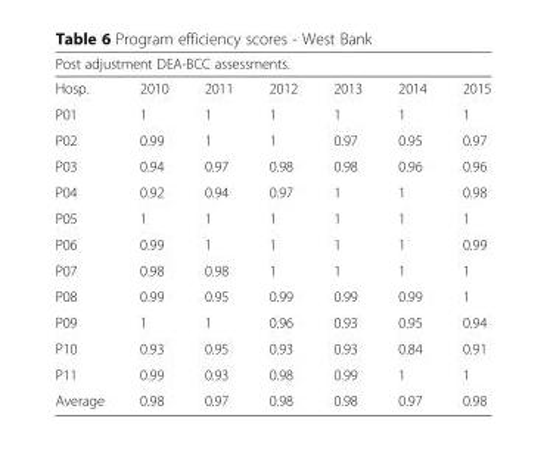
<table><thead><tr><td colspan="7">Post adjustment DEA-BCC assessments.</td></tr><tr><td>Hosp.</td><td>2010</td><td>2011</td><td>2012</td><td>2013</td><td>2014</td><td>2015</td></tr></thead><tbody><tr><td>P01</td><td>1</td><td>1</td><td>1</td><td>1</td><td>1</td><td>1</td></tr><tr><td>P02</td><td>0.99</td><td>1</td><td>1</td><td>0.97</td><td>0.95</td><td>0.97</td></tr><tr><td>P03</td><td>0.94</td><td>0.97</td><td>0.98</td><td>0.98</td><td>0.96</td><td>0.96</td></tr><tr><td>P04</td><td>0.92</td><td>0.94</td><td>0.97</td><td>1</td><td>1</td><td>0.98</td></tr><tr><td>P05</td><td>1</td><td>1</td><td>1</td><td>1</td><td>1</td><td>1</td></tr><tr><td>P06</td><td>0.99</td><td>1</td><td>1</td><td>1</td><td>1</td><td>0.99</td></tr><tr><td>P07</td><td>0.98</td><td>0.98</td><td>1</td><td>1</td><td>1</td><td>1</td></tr><tr><td>P08</td><td>0.99</td><td>0.95</td><td>0.99</td><td>0.99</td><td>0.99</td><td>1</td></tr><tr><td>P09</td><td>1</td><td>1</td><td>0.96</td><td>0.93</td><td>0.95</td><td>0.94</td></tr><tr><td>P10</td><td>0.93</td><td>0.95</td><td>0.93</td><td>0.93</td><td>0.84</td><td>0.91</td></tr><tr><td>P11</td><td>0.99</td><td>0.93</td><td>0.98</td><td>0.99</td><td>1</td><td>1</td></tr><tr><td>Average</td><td>0.98</td><td>0.97</td><td>0.98</td><td>0.98</td><td>0.97</td><td>0.98</td></tr></tbody></table>